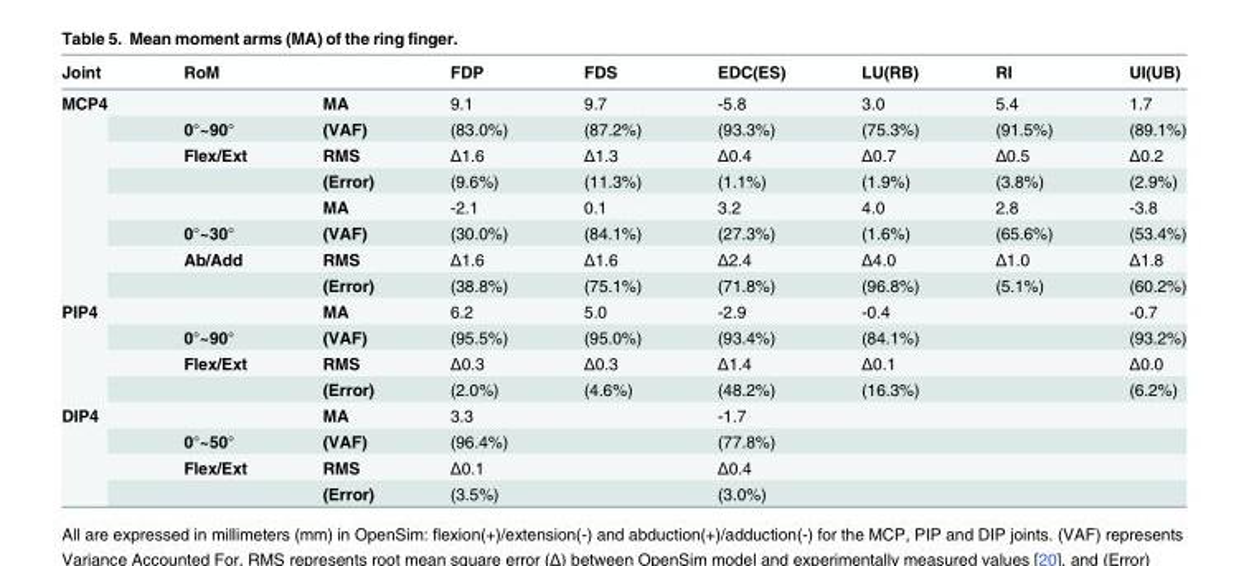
<table><thead><tr><td>Joint</td><td>RoM</td><td></td><td>FDP</td><td>FDS</td><td>EDC(ES)</td><td>LU(RB)</td><td>RI</td><td>UI(UB)</td></tr></thead><tbody><tr><td rowspan="8">MCP4</td><td></td><td>MA</td><td>9.1</td><td>9.7</td><td>-5.8</td><td>3.0</td><td>5.4</td><td>1.7</td></tr><tr><td>0°~90°</td><td>(VAF)</td><td>(83.0%)</td><td>(87.2%)</td><td>(93.3%)</td><td>(75.3%)</td><td>(91.5%)</td><td>(89.1%)</td></tr><tr><td>Flex/Ext</td><td>RMS</td><td>Δ1.6</td><td>Δ1.3</td><td>Δ0.4</td><td>Δ0.7</td><td>Δ0.5</td><td>Δ0.2</td></tr><tr><td></td><td>(Error)</td><td>(9.6%)</td><td>(11.3%)</td><td>(1.1%)</td><td>(1.9%)</td><td>(3.8%)</td><td>(2.9%)</td></tr><tr><td></td><td>MA</td><td>-2.1</td><td>0.1</td><td>3.2</td><td>4.0</td><td>2.8</td><td>-3.8</td></tr><tr><td>0°~30°</td><td>(VAF)</td><td>(30.0%)</td><td>(84.1%)</td><td>(27.3%)</td><td>(1.6%)</td><td>(65.6%)</td><td>(53.4%)</td></tr><tr><td>Ab/Add</td><td>RMS</td><td>Δ1.6</td><td>Δ1.6</td><td>Δ2.4</td><td>Δ4.0</td><td>Δ1.0</td><td>Δ1.8</td></tr><tr><td></td><td>(Error)</td><td>(38.8%)</td><td>(75.1%)</td><td>(71.8%)</td><td>(96.8%)</td><td>(5.1%)</td><td>(60.2%)</td></tr><tr><td rowspan="4">PIP4</td><td></td><td>MA</td><td>6.2</td><td>5.0</td><td>-2.9</td><td>-0.4</td><td></td><td>-0.7</td></tr><tr><td>0°~90°</td><td>(VAF)</td><td>(95.5%)</td><td>(95.0%)</td><td>(93.4%)</td><td>(84.1%)</td><td></td><td>(93.2%)</td></tr><tr><td>Flex/Ext</td><td>RMS</td><td>Δ0.3</td><td>Δ0.3</td><td>Δ1.4</td><td>Δ0.1</td><td></td><td>Δ0.0</td></tr><tr><td></td><td>(Error)</td><td>(2.0%)</td><td>(4.6%)</td><td>(48.2%)</td><td>(16.3%)</td><td></td><td>(6.2%)</td></tr><tr><td rowspan="4">DIP4</td><td></td><td>MA</td><td>3.3</td><td></td><td>-1.7</td><td></td><td></td><td></td></tr><tr><td>0°~50°</td><td>(VAF)</td><td>(96.4%)</td><td></td><td>(77.8%)</td><td></td><td></td><td></td></tr><tr><td>Flex/Ext</td><td>RMS</td><td>Δ0.1</td><td></td><td>Δ0.4</td><td></td><td></td><td></td></tr><tr><td></td><td>(Error)</td><td>(3.5%)</td><td></td><td>(3.0%)</td><td></td><td></td><td></td></tr></tbody></table>